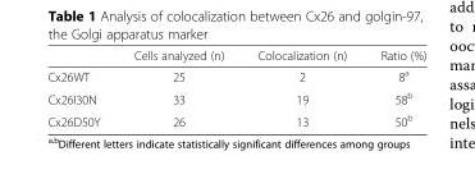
<table><thead><tr><td></td><td>Cells analyzed (n)</td><td>Colocalization (n)</td><td>Ratio (%)</td></tr></thead><tbody><tr><td>Cx26WT</td><td>25</td><td>2</td><td>8<sup>a</sup></td></tr><tr><td>Cx26I30N</td><td>33</td><td>19</td><td>58<sup>b</sup></td></tr><tr><td>Cx26D50Y</td><td>26</td><td>13</td><td>50<sup>b</sup></td></tr></tbody></table>